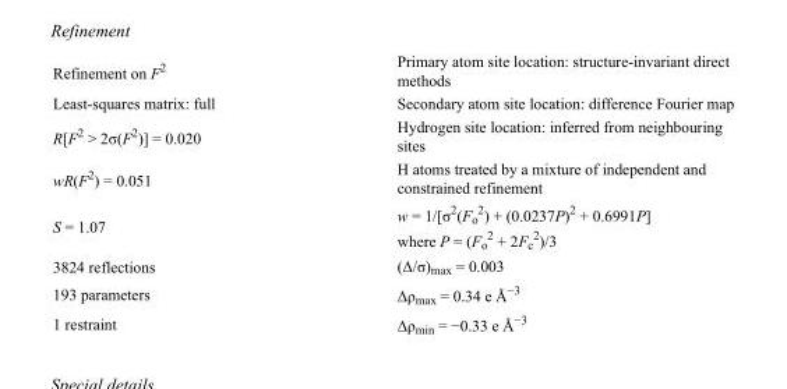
<table><tbody><tr><td>Refinement on F<sup>2</sup></td><td>Primary atom site location: structure-invariant direct methods</td></tr><tr><td>Least-squares matrix: full</td><td>Secondary atom site location: difference Fourier map</td></tr><tr><td>R[F<sup>2</sup> &gt; 2σ(F<sup>2</sup>)] = 0.020</td><td>Hydrogen site location: inferred from neighbouring sites</td></tr><tr><td>wR(F<sup>2</sup>) = 0.051</td><td>H atoms treated by a mixture of independent and constrained refinement</td></tr><tr><td>S = 1.07</td><td>w = 1/[σ<sup>2</sup>(F<sub>o</sub> <sup>2</sup>) + (0.0237P)<sup>2</sup> + 0.6991P] where P = (F<sub>o</sub> <sup>2</sup> + 2F<sub>c</sub> <sup>2</sup>)/3</td></tr><tr><td>3824 reflections</td><td>(Δ/σ)<sub>max</sub> = 0.003</td></tr><tr><td>193 parameters</td><td>Δρ<sub>max</sub> = 0.34 e Å<sup>−3</sup></td></tr><tr><td>1 restraint</td><td>Δρ<sub>min</sub> = −0.33 e Å<sup>−3</sup></td></tr></tbody></table>